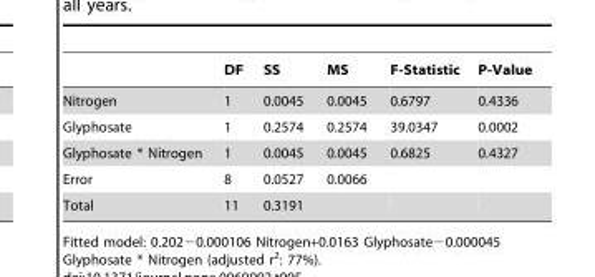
<table><thead><tr><td></td><td>DF</td><td>SS</td><td>MS</td><td>F-Statistic</td><td>P-Value</td></tr></thead><tbody><tr><td>Nitrogen</td><td>1</td><td>0.0045</td><td>0.0045</td><td>0.6797</td><td>0.4336</td></tr><tr><td>Glyphosate</td><td>1</td><td>0.2574</td><td>0.2574</td><td>39.0347</td><td>0.0002</td></tr><tr><td>Glyphosate * Nitrogen</td><td>1</td><td>0.0045</td><td>0.0045</td><td>0.6825</td><td>0.4327</td></tr><tr><td>Error</td><td>8</td><td>0.0527</td><td>0.0066</td><td></td><td></td></tr><tr><td>Total</td><td>11</td><td>0.3191</td><td></td><td></td><td></td></tr></tbody></table>